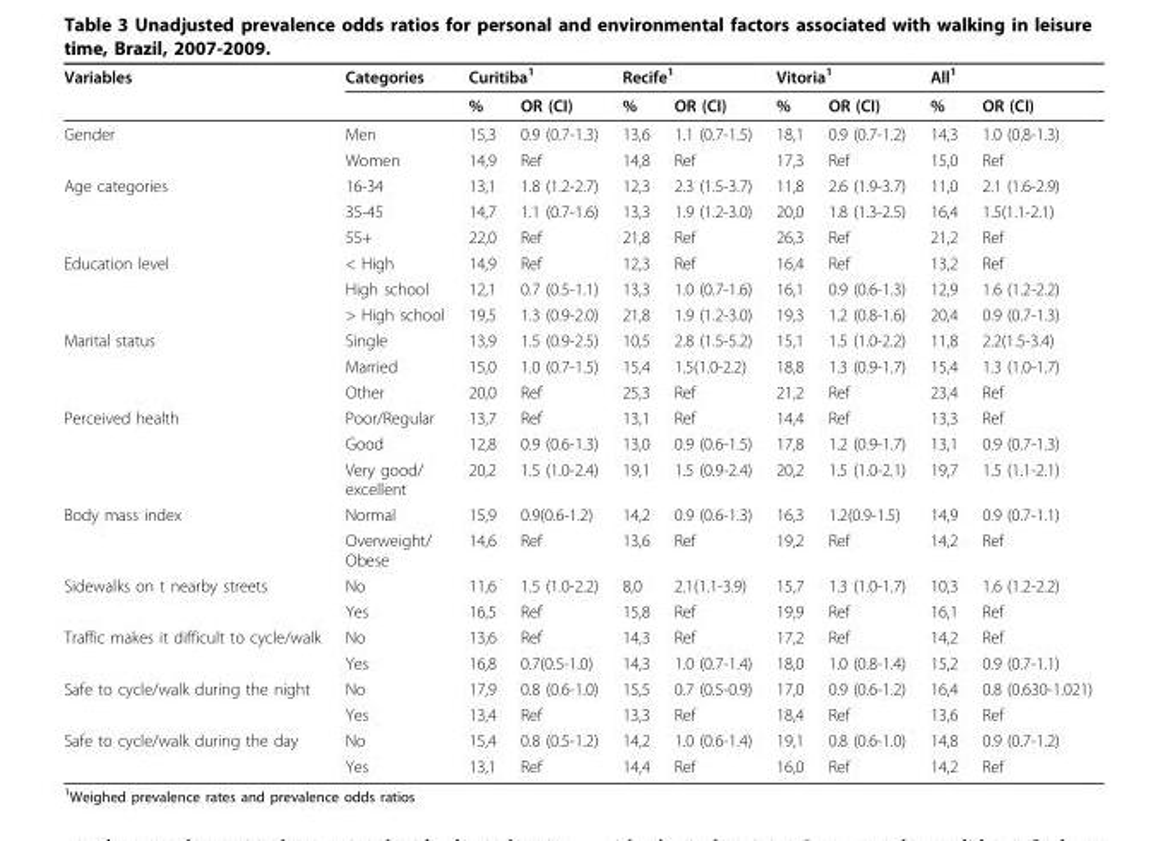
<table><thead><tr><td rowspan="2">Variables</td><td rowspan="2">Categories</td><td colspan="2">Curitiba<sup>1</sup></td><td colspan="2">Recife<sup>1</sup></td><td colspan="2">Vitoria<sup>1</sup></td><td colspan="2">All<sup>1</sup></td></tr><tr><td>%</td><td>OR (CI)</td><td>%</td><td>OR (CI)</td><td>%</td><td>OR (CI)</td><td>%</td><td>OR (CI)</td></tr></thead><tbody><tr><td rowspan="2">Gender</td><td>Men</td><td>15,3</td><td>0.9 (0.7-1.3)</td><td>13,6</td><td>1.1 (0.7-1.5)</td><td>18,1</td><td>0.9 (0.7-1.2)</td><td>14,3</td><td>1.0 (0.8-1.3)</td></tr><tr><td>Women</td><td>14,9</td><td>Ref</td><td>14,8</td><td>Ref</td><td>17,3</td><td>Ref</td><td>15,0</td><td>Ref</td></tr><tr><td rowspan="3">Age categories</td><td>16-34</td><td>13,1</td><td>1.8 (1.2-2.7)</td><td>12,3</td><td>2.3 (1.5-3.7)</td><td>11,8</td><td>2.6 (1.9-3.7)</td><td>11,0</td><td>2.1 (1.6-2.9)</td></tr><tr><td>35-45</td><td>14,7</td><td>1.1 (0.7-1.6)</td><td>13,3</td><td>1.9 (1.2-3.0)</td><td>20,0</td><td>1.8 (1.3-2.5)</td><td>16,4</td><td>1.5(1.1-2.1)</td></tr><tr><td>55+</td><td>22,0</td><td>Ref</td><td>21,8</td><td>Ref</td><td>26,3</td><td>Ref</td><td>21,2</td><td>Ref</td></tr><tr><td rowspan="3">Education level</td><td>&lt; High</td><td>14,9</td><td>Ref</td><td>12,3</td><td>Ref</td><td>16,4</td><td>Ref</td><td>13,2</td><td>Ref</td></tr><tr><td>High school</td><td>12,1</td><td>0.7 (0.5-1.1)</td><td>13,3</td><td>1.0 (0.7-1.6)</td><td>16,1</td><td>0.9 (0.6-1.3)</td><td>12,9</td><td>1.6 (1.2-2.2)</td></tr><tr><td>&gt; High school</td><td>19,5</td><td>1.3 (0.9-2.0)</td><td>21,8</td><td>1.9 (1.2-3.0)</td><td>19,3</td><td>1.2 (0.8-1.6)</td><td>20,4</td><td>0.9 (0.7-1.3)</td></tr><tr><td rowspan="3">Marital status</td><td>Single</td><td>13,9</td><td>1.5 (0.9-2.5)</td><td>10,5</td><td>2.8 (1.5-5.2)</td><td>15,1</td><td>1.5 (1.0-2.2)</td><td>11,8</td><td>2.2(1.5-3.4)</td></tr><tr><td>Married</td><td>15,0</td><td>1.0 (0.7-1.5)</td><td>15,4</td><td>1.5(1.0-2.2)</td><td>18,8</td><td>1.3 (0.9-1.7)</td><td>15,4</td><td>1.3 (1.0-1.7)</td></tr><tr><td>Other</td><td>20,0</td><td>Ref</td><td>25,3</td><td>Ref</td><td>21,2</td><td>Ref</td><td>23,4</td><td>Ref</td></tr><tr><td rowspan="3">Perceived health</td><td>Poor/Regular</td><td>13,7</td><td>Ref</td><td>13,1</td><td>Ref</td><td>14,4</td><td>Ref</td><td>13,3</td><td>Ref</td></tr><tr><td>Good</td><td>12,8</td><td>0.9 (0.6-1.3)</td><td>13,0</td><td>0.9 (0.6-1.5)</td><td>17,8</td><td>1.2 (0.9-1.7)</td><td>13,1</td><td>0.9 (0.7-1.3)</td></tr><tr><td>Very good/ excellent</td><td>20,2</td><td>1.5 (1.0-2.4)</td><td>19,1</td><td>1.5 (0.9-2.4)</td><td>20,2</td><td>1.5 (1.0-2.1)</td><td>19,7</td><td>1.5 (1.1-2.1)</td></tr><tr><td rowspan="2">Body mass index</td><td>Normal</td><td>15,9</td><td>0.9(0.6-1.2)</td><td>14,2</td><td>0.9 (0.6-1.3)</td><td>16,3</td><td>1.2(0.9-1.5)</td><td>14,9</td><td>0.9 (0.7-1.1)</td></tr><tr><td>Overweight/ Obese</td><td>14,6</td><td>Ref</td><td>13,6</td><td>Ref</td><td>19,2</td><td>Ref</td><td>14,2</td><td>Ref</td></tr><tr><td rowspan="2">Sidewalks on t nearby streets</td><td>No</td><td>11,6</td><td>1.5 (1.0-2.2)</td><td>8,0</td><td>2.1(1.1-3.9)</td><td>15,7</td><td>1.3 (1.0-1.7)</td><td>10,3</td><td>1.6 (1.2-2.2)</td></tr><tr><td>Yes</td><td>16,5</td><td>Ref</td><td>15,8</td><td>Ref</td><td>19,9</td><td>Ref</td><td>16,1</td><td>Ref</td></tr><tr><td rowspan="2">Traffic makes it difficult to cycle/walk</td><td>No</td><td>13,6</td><td>Ref</td><td>14,3</td><td>Ref</td><td>17,2</td><td>Ref</td><td>14,2</td><td>Ref</td></tr><tr><td>Yes</td><td>16,8</td><td>0.7(0.5-1.0)</td><td>14,3</td><td>1.0 (0.7-1.4)</td><td>18,0</td><td>1.0 (0.8-1.4)</td><td>15,2</td><td>0.9 (0.7-1.1)</td></tr><tr><td rowspan="2">Safe to cycle/walk during the night</td><td>No</td><td>17,9</td><td>0.8 (0.6-1.0)</td><td>15,5</td><td>0.7 (0.5-0.9)</td><td>17,0</td><td>0.9 (0.6-1.2)</td><td>16,4</td><td>0.8 (0.630-1.021)</td></tr><tr><td>Yes</td><td>13,4</td><td>Ref</td><td>13,3</td><td>Ref</td><td>18,4</td><td>Ref</td><td>13,6</td><td>Ref</td></tr><tr><td rowspan="2">Safe to cycle/walk during the day</td><td>No</td><td>15,4</td><td>0.8 (0.5-1.2)</td><td>14,2</td><td>1.0 (0.6-1.4)</td><td>19,1</td><td>0.8 (0.6-1.0)</td><td>14,8</td><td>0.9 (0.7-1.2)</td></tr><tr><td>Yes</td><td>13,1</td><td>Ref</td><td>14,4</td><td>Ref</td><td>16,0</td><td>Ref</td><td>14,2</td><td>Ref</td></tr></tbody></table>